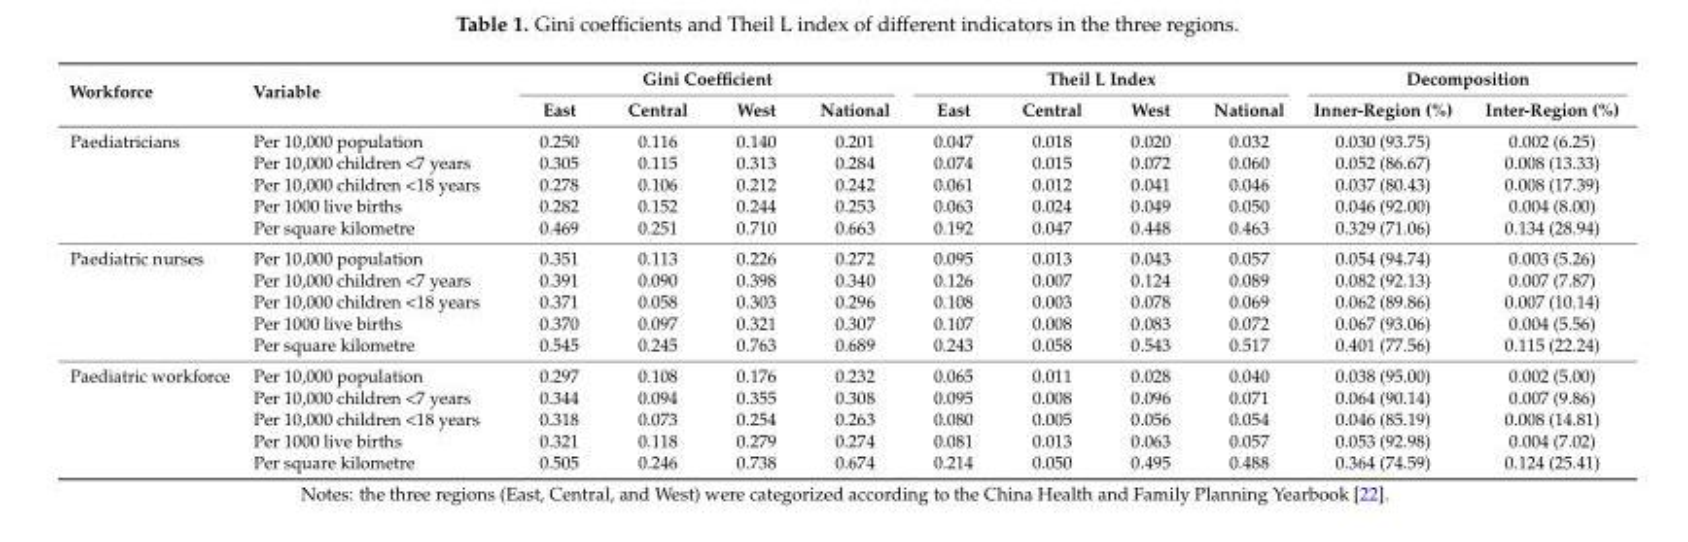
<table><thead><tr><td rowspan="2">Workforce</td><td rowspan="2">Variable</td><td colspan="4">Gini Coefficient</td><td colspan="4">Theil L Index</td><td colspan="2">Decomposition</td></tr><tr><td>East</td><td>Central</td><td>West</td><td>National</td><td>East</td><td>Central</td><td>West</td><td>National</td><td>Inner-Region (%)</td><td>Inter-Region (%)</td></tr></thead><tbody><tr><td rowspan="5">Paediatricians</td><td>Per 10,000 population</td><td>0.250</td><td>0.116</td><td>0.140</td><td>0.201</td><td>0.047</td><td>0.018</td><td>0.020</td><td>0.032</td><td>0.030 (93.75)</td><td>0.002 (6.25)</td></tr><tr><td>Per 10,000 children &lt;7 years</td><td>0.305</td><td>0.115</td><td>0.313</td><td>0.284</td><td>0.074</td><td>0.015</td><td>0.072</td><td>0.060</td><td>0.052 (86.67)</td><td>0.008 (13.33)</td></tr><tr><td>Per 10,000 children &lt;18 years</td><td>0.278</td><td>0.106</td><td>0.212</td><td>0.242</td><td>0.061</td><td>0.012</td><td>0.041</td><td>0.046</td><td>0.037 (80.43)</td><td>0.008 (17.39)</td></tr><tr><td>Per 1000 live births</td><td>0.282</td><td>0.152</td><td>0.244</td><td>0.253</td><td>0.063</td><td>0.024</td><td>0.049</td><td>0.050</td><td>0.046 (92.00)</td><td>0.004 (8.00)</td></tr><tr><td>Per square kilometre</td><td>0.469</td><td>0.251</td><td>0.710</td><td>0.663</td><td>0.192</td><td>0.047</td><td>0.448</td><td>0.463</td><td>0.329 (71.06)</td><td>0.134 (28.94)</td></tr><tr><td rowspan="5">Paediatric nurses</td><td>Per 10,000 population</td><td>0.351</td><td>0.113</td><td>0.226</td><td>0.272</td><td>0.095</td><td>0.013</td><td>0.043</td><td>0.057</td><td>0.054 (94.74)</td><td>0.003 (5.26)</td></tr><tr><td>Per 10,000 children &lt;7 years</td><td>0.391</td><td>0.090</td><td>0.398</td><td>0.340</td><td>0.126</td><td>0.007</td><td>0.124</td><td>0.089</td><td>0.082 (92.13)</td><td>0.007 (7.87)</td></tr><tr><td>Per 10,000 children &lt;18 years</td><td>0.371</td><td>0.058</td><td>0.303</td><td>0.296</td><td>0.108</td><td>0.003</td><td>0.078</td><td>0.069</td><td>0.062 (89.86)</td><td>0.007 (10.14)</td></tr><tr><td>Per 1000 live births</td><td>0.370</td><td>0.097</td><td>0.321</td><td>0.307</td><td>0.107</td><td>0.008</td><td>0.083</td><td>0.072</td><td>0.067 (93.06)</td><td>0.004 (5.56)</td></tr><tr><td>Per square kilometre</td><td>0.545</td><td>0.245</td><td>0.763</td><td>0.689</td><td>0.243</td><td>0.058</td><td>0.543</td><td>0.517</td><td>0.401 (77.56)</td><td>0.115 (22.24)</td></tr><tr><td rowspan="5">Paediatric workforce</td><td>Per 10,000 population</td><td>0.297</td><td>0.108</td><td>0.176</td><td>0.232</td><td>0.065</td><td>0.011</td><td>0.028</td><td>0.040</td><td>0.038 (95.00)</td><td>0.002 (5.00)</td></tr><tr><td>Per 10,000 children &lt;7 years</td><td>0.344</td><td>0.094</td><td>0.355</td><td>0.308</td><td>0.095</td><td>0.008</td><td>0.096</td><td>0.071</td><td>0.064 (90.14)</td><td>0.007 (9.86)</td></tr><tr><td>Per 10,000 children &lt;18 years</td><td>0.318</td><td>0.073</td><td>0.254</td><td>0.263</td><td>0.080</td><td>0.005</td><td>0.056</td><td>0.054</td><td>0.046 (85.19)</td><td>0.008 (14.81)</td></tr><tr><td>Per 1000 live births</td><td>0.321</td><td>0.118</td><td>0.279</td><td>0.274</td><td>0.081</td><td>0.013</td><td>0.063</td><td>0.057</td><td>0.053 (92.98)</td><td>0.004 (7.02)</td></tr><tr><td>Per square kilometre</td><td>0.505</td><td>0.246</td><td>0.738</td><td>0.674</td><td>0.214</td><td>0.050</td><td>0.495</td><td>0.488</td><td>0.364 (74.59)</td><td>0.124 (25.41)</td></tr></tbody></table>